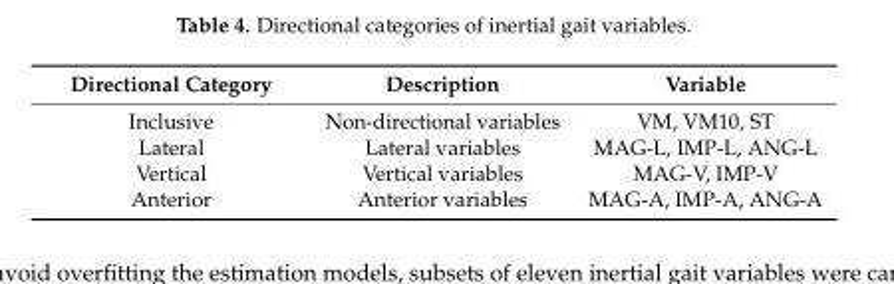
<table><thead><tr><td>Directional Category</td><td>Description</td><td>Variable</td></tr></thead><tbody><tr><td>Inclusive</td><td>Non-directional variables</td><td>VM, VM10, ST</td></tr><tr><td>Lateral</td><td>Lateral variables</td><td>MAG-L, IMP-L, ANG-L</td></tr><tr><td>Vertical</td><td>Vertical variables</td><td>MAG-V, IMP-V</td></tr><tr><td>Anterior</td><td>Anterior variables</td><td>MAG-A, IMP-A, ANG-A</td></tr></tbody></table>